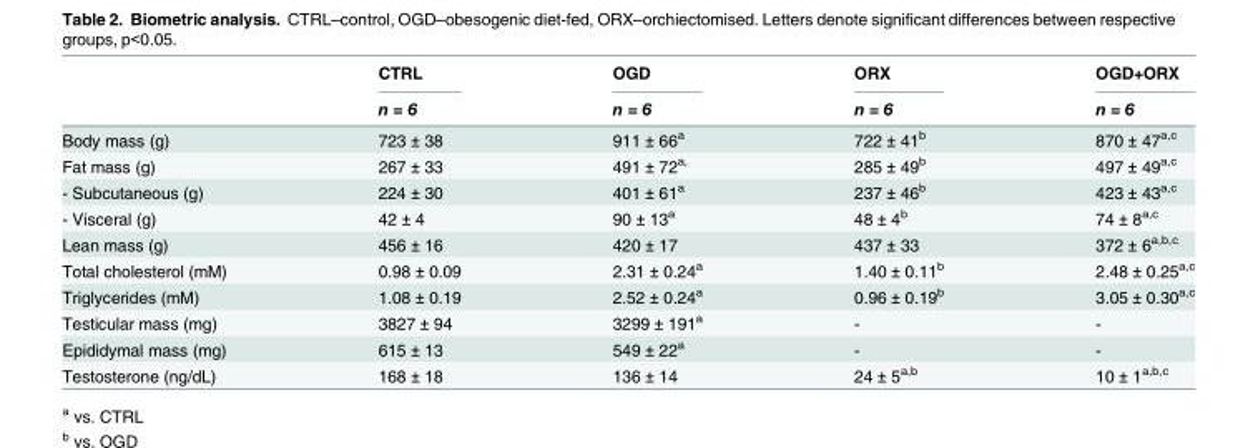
<table><thead><tr><td rowspan="2"></td><td rowspan="2">CTRL n = 6</td><td rowspan="2">OGD n = 6</td><td rowspan="2">ORX n = 6</td><td rowspan="2">OGD+ORX n = 6</td></tr><tr></tr></thead><tbody><tr><td>Body mass (g)</td><td>723 ± 38</td><td>911 ± 66<sup>a</sup></td><td>722 ± 41<sup>b</sup></td><td>870 ± 47<sup>a,c</sup></td></tr><tr><td>Fat mass (g)</td><td>267 ± 33</td><td>491 ± 72<sup>a,</sup></td><td>285 ± 49<sup>b</sup></td><td>497 ± 49<sup>a,c</sup></td></tr><tr><td>- Subcutaneous (g)</td><td>224 ± 30</td><td>401 ± 61<sup>a</sup></td><td>237 ± 46<sup>b</sup></td><td>423 ± 43<sup>a,c</sup></td></tr><tr><td>- Visceral (g)</td><td>42 ± 4</td><td>90 ± 13<sup>a</sup></td><td>48 ± 4<sup>b</sup></td><td>74 ± 8<sup>a,c</sup></td></tr><tr><td>Lean mass (g)</td><td>456 ± 16</td><td>420 ± 17</td><td>437 ± 33</td><td>372 ± 6<sup>a,b,c</sup></td></tr><tr><td>Total cholesterol (mM)</td><td>0.98 ± 0.09</td><td>2.31 ± 0.24<sup>a</sup></td><td>1.40 ± 0.11<sup>b</sup></td><td>2.48 ± 0.25<sup>a,c</sup></td></tr><tr><td>Triglycerides (mM)</td><td>1.08 ± 0.19</td><td>2.52 ± 0.24<sup>a</sup></td><td>0.96 ± 0.19<sup>b</sup></td><td>3.05 ± 0.30<sup>a,c</sup></td></tr><tr><td>Testicular mass (mg)</td><td>3827 ± 94</td><td>3299 ± 191<sup>a</sup></td><td>-</td><td>-</td></tr><tr><td>Epididymal mass (mg)</td><td>615 ± 13</td><td>549 ± 22<sup>a</sup></td><td>-</td><td>-</td></tr><tr><td>Testosterone (ng/dL)</td><td>168 ± 18</td><td>136 ± 14</td><td>24 ± 5<sup>a,b</sup></td><td>10 ± 1<sup>a,b,c</sup></td></tr></tbody></table>